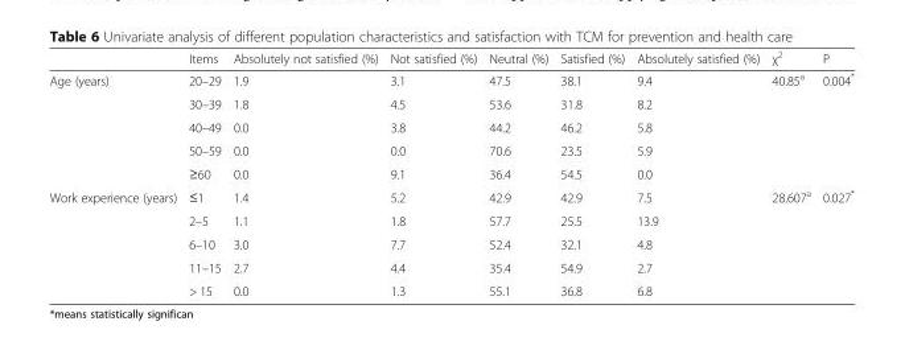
<table><thead><tr><td></td><td>Items</td><td>Absolutely not satisfied (%)</td><td>Not satisfied (%)</td><td>Neutral (%)</td><td>Satisfied (%)</td><td>Absolutely satisfied (%)</td><td>χ<sup>2</sup></td><td>P</td></tr></thead><tbody><tr><td rowspan="5">Age (years)</td><td>20–29</td><td>1.9</td><td>3.1</td><td>47.5</td><td>38.1</td><td>9.4</td><td>40.85<sup>a</sup></td><td>0.004*</td></tr><tr><td>30–39</td><td>1.8</td><td>4.5</td><td>53.6</td><td>31.8</td><td>8.2</td><td></td><td></td></tr><tr><td>40–49</td><td>0.0</td><td>3.8</td><td>44.2</td><td>46.2</td><td>5.8</td><td></td><td></td></tr><tr><td>50–59</td><td>0.0</td><td>0.0</td><td>70.6</td><td>23.5</td><td>5.9</td><td></td><td></td></tr><tr><td>≥60</td><td>0.0</td><td>9.1</td><td>36.4</td><td>54.5</td><td>0.0</td><td></td><td></td></tr><tr><td rowspan="5">Work experience (years)</td><td>≤1</td><td>1.4</td><td>5.2</td><td>42.9</td><td>42.9</td><td>7.5</td><td>28.607<sup>a</sup></td><td>0.027*</td></tr><tr><td>2–5</td><td>1.1</td><td>1.8</td><td>57.7</td><td>25.5</td><td>13.9</td><td></td><td></td></tr><tr><td>6–10</td><td>3.0</td><td>7.7</td><td>52.4</td><td>32.1</td><td>4.8</td><td></td><td></td></tr><tr><td>11–15</td><td>2.7</td><td>4.4</td><td>35.4</td><td>54.9</td><td>2.7</td><td></td><td></td></tr><tr><td>&gt; 15</td><td>0.0</td><td>1.3</td><td>55.1</td><td>36.8</td><td>6.8</td><td></td><td></td></tr></tbody></table>